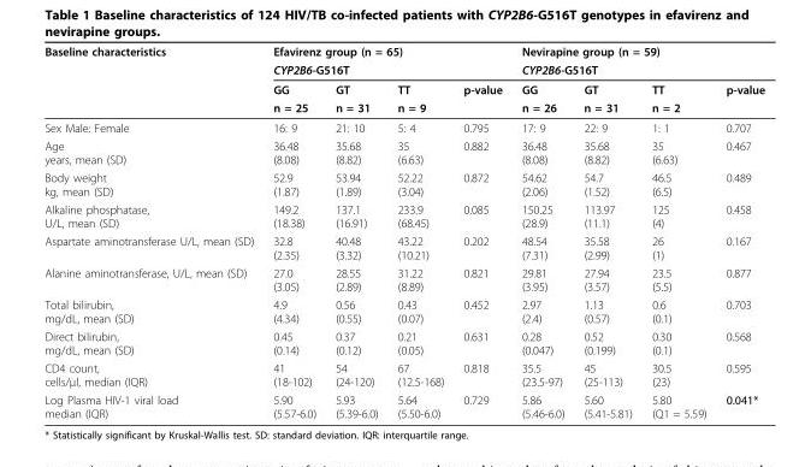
<table><thead><tr><td rowspan="4">Baseline characteristics</td><td rowspan="2" colspan="4">Efavirenz group (n = 65) CYP2B6-G516T</td><td rowspan="2" colspan="4">Nevirapine group (n = 59) CYP2B6-G516T</td></tr><tr></tr><tr><td rowspan="2">GG n = 25</td><td rowspan="2">GT n = 31</td><td rowspan="2">TT n = 9</td><td rowspan="2">p-value</td><td rowspan="2">GG n = 26</td><td rowspan="2">GT n = 31</td><td rowspan="2">TT n = 2</td><td rowspan="2">p-value</td></tr><tr></tr></thead><tbody><tr><td>Sex Male: Female</td><td>16: 9</td><td>21: 10</td><td>5: 4</td><td>0.795</td><td>17: 9</td><td>22: 9</td><td>1: 1</td><td>0.707</td></tr><tr><td>Age years, mean (SD)</td><td>36.48 (8.08)</td><td>35.68 (8.82)</td><td>35 (6.63)</td><td>0.882</td><td>36.48 (8.08)</td><td>35.68 (8.82)</td><td>35 (6.63)</td><td>0.467</td></tr><tr><td>Body weight kg, mean (SD)</td><td>52.9 (1.87)</td><td>53.94 (1.89)</td><td>52.22 (3.04)</td><td>0.872</td><td>54.62 (2.06)</td><td>54.7 (1.52)</td><td>46.5 (6.5)</td><td>0.489</td></tr><tr><td>Alkaline phosphatase, U/L, mean (SD)</td><td>149.2 (18.38)</td><td>137.1 (16.91)</td><td>233.9 (68.45)</td><td>0.085</td><td>150.25 (28.9)</td><td>113.97 (11.1)</td><td>125 (4)</td><td>0.458</td></tr><tr><td>Aspartate aminotransferase U/L, mean (SD)</td><td>32.8 (2.35)</td><td>40.48 (3.32)</td><td>43.22 (10.21)</td><td>0.202</td><td>48.54 (7.31)</td><td>35.58 (2.99)</td><td>26 (1)</td><td>0.167</td></tr><tr><td>Alanine aminotransferase, U/L, mean (SD)</td><td>27.0 (3.05)</td><td>28.55 (2.89)</td><td>31.22 (8.89)</td><td>0.821</td><td>29.81 (3.95)</td><td>27.94 (3.57)</td><td>23.5 (5.5)</td><td>0.877</td></tr><tr><td>Total bilirubin, mg/dL, mean (SD)</td><td>4.9 (4.34)</td><td>0.56 (0.55)</td><td>0.43 (0.07)</td><td>0.452</td><td>2.97 (2.4)</td><td>1.13 (0.57)</td><td>0.6 (0.1)</td><td>0.703</td></tr><tr><td>Direct bilirubin, mg/dL, mean (SD)</td><td>0.45 (0.14)</td><td>0.37 (0.12)</td><td>0.21 (0.05)</td><td>0.631</td><td>0.28 (0.047)</td><td>0.52 (0.199)</td><td>0.30 (0.1)</td><td>0.568</td></tr><tr><td>CD4 count, cells/μl, median (IQR)</td><td>41 (18-102)</td><td>54 (24-120)</td><td>67 (12.5-168)</td><td>0.818</td><td>35.5 (23.5-97)</td><td>45 (25-113)</td><td>30.5 (23)</td><td>0.595</td></tr><tr><td>Log Plasma HIV-1 viral load median (IQR)</td><td>5.90 (5.57-6.0)</td><td>5.93 (5.39-6.0)</td><td>5.64 (5.50-6.0)</td><td>0.729</td><td>5.86 (5.46-6.0)</td><td>5.60 (5.41-5.81)</td><td>5.80 (Q1 = 5.59)</td><td>0.041*</td></tr></tbody></table>